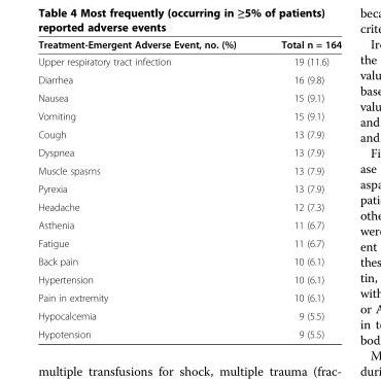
<table><thead><tr><td>Treatment-Emergent Adverse Event, no. (%)</td><td>Total n = 164</td></tr></thead><tbody><tr><td>Upper respiratory tract infection</td><td>19 (11.6)</td></tr><tr><td>Diarrhea</td><td>16 (9.8)</td></tr><tr><td>Nausea</td><td>15 (9.1)</td></tr><tr><td>Vomiting</td><td>15 (9.1)</td></tr><tr><td>Cough</td><td>13 (7.9)</td></tr><tr><td>Dyspnea</td><td>13 (7.9)</td></tr><tr><td>Muscle spasms</td><td>13 (7.9)</td></tr><tr><td>Pyrexia</td><td>13 (7.9)</td></tr><tr><td>Headache</td><td>12 (7.3)</td></tr><tr><td>Asthenia</td><td>11 (6.7)</td></tr><tr><td>Fatigue</td><td>11 (6.7)</td></tr><tr><td>Back pain</td><td>10 (6.1)</td></tr><tr><td>Hypertension</td><td>10 (6.1)</td></tr><tr><td>Pain in extremity</td><td>10 (6.1)</td></tr><tr><td>Hypocalcemia</td><td>9 (5.5)</td></tr><tr><td>Hypotension</td><td>9 (5.5)</td></tr></tbody></table>